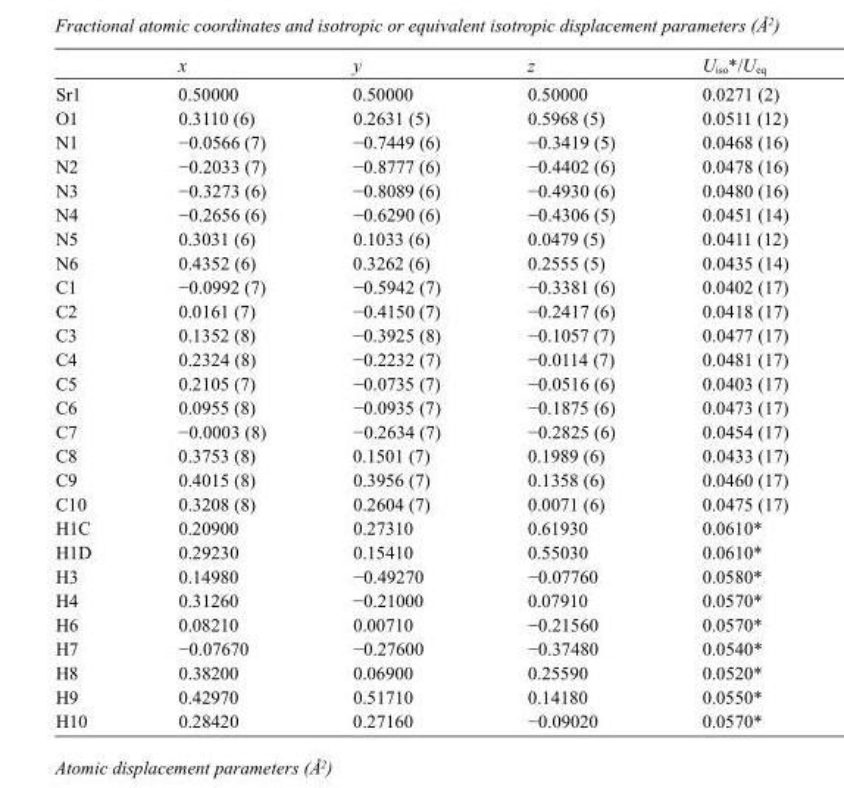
<table><thead><tr><td></td><td>x</td><td>y</td><td>z</td><td>U<sub>iso</sub>*/U<sub>eq</sub></td></tr></thead><tbody><tr><td>Sr1</td><td>0.50000</td><td>0.50000</td><td>0.50000</td><td>0.0271 (2)</td></tr><tr><td>O1</td><td>0.3110 (6)</td><td>0.2631 (5)</td><td>0.5968 (5)</td><td>0.0511 (12)</td></tr><tr><td>N1</td><td>−0.0566 (7)</td><td>−0.7449 (6)</td><td>−0.3419 (5)</td><td>0.0468 (16)</td></tr><tr><td>N2</td><td>−0.2033 (7)</td><td>−0.8777 (6)</td><td>−0.4402 (6)</td><td>0.0478 (16)</td></tr><tr><td>N3</td><td>−0.3273 (6)</td><td>−0.8089 (6)</td><td>−0.4930 (6)</td><td>0.0480 (16)</td></tr><tr><td>N4</td><td>−0.2656 (6)</td><td>−0.6290 (6)</td><td>−0.4306 (5)</td><td>0.0451 (14)</td></tr><tr><td>N5</td><td>0.3031 (6)</td><td>0.1033 (6)</td><td>0.0479 (5)</td><td>0.0411 (12)</td></tr><tr><td>N6</td><td>0.4352 (6)</td><td>0.3262 (6)</td><td>0.2555 (5)</td><td>0.0435 (14)</td></tr><tr><td>C1</td><td>−0.0992 (7)</td><td>−0.5942 (7)</td><td>−0.3381 (6)</td><td>0.0402 (17)</td></tr><tr><td>C2</td><td>0.0161 (7)</td><td>−0.4150 (7)</td><td>−0.2417 (6)</td><td>0.0418 (17)</td></tr><tr><td>C3</td><td>0.1352 (8)</td><td>−0.3925 (8)</td><td>−0.1057 (7)</td><td>0.0477 (17)</td></tr><tr><td>C4</td><td>0.2324 (8)</td><td>−0.2232 (7)</td><td>−0.0114 (7)</td><td>0.0481 (17)</td></tr><tr><td>C5</td><td>0.2105 (7)</td><td>−0.0735 (7)</td><td>−0.0516 (6)</td><td>0.0403 (17)</td></tr><tr><td>C6</td><td>0.0955 (8)</td><td>−0.0935 (7)</td><td>−0.1875 (6)</td><td>0.0473 (17)</td></tr><tr><td>C7</td><td>−0.0003 (8)</td><td>−0.2634 (7)</td><td>−0.2825 (6)</td><td>0.0454 (17)</td></tr><tr><td>C8</td><td>0.3753 (8)</td><td>0.1501 (7)</td><td>0.1989 (6)</td><td>0.0433 (17)</td></tr><tr><td>C9</td><td>0.4015 (8)</td><td>0.3956 (7)</td><td>0.1358 (6)</td><td>0.0460 (17)</td></tr><tr><td>C10</td><td>0.3208 (8)</td><td>0.2604 (7)</td><td>0.0071 (6)</td><td>0.0475 (17)</td></tr><tr><td>H1C</td><td>0.20900</td><td>0.27310</td><td>0.61930</td><td>0.0610*</td></tr><tr><td>H1D</td><td>0.29230</td><td>0.15410</td><td>0.55030</td><td>0.0610*</td></tr><tr><td>H3</td><td>0.14980</td><td>−0.49270</td><td>−0.07760</td><td>0.0580*</td></tr><tr><td>H4</td><td>0.31260</td><td>−0.21000</td><td>0.07910</td><td>0.0570*</td></tr><tr><td>H6</td><td>0.08210</td><td>0.00710</td><td>−0.21560</td><td>0.0570*</td></tr><tr><td>H7</td><td>−0.07670</td><td>−0.27600</td><td>−0.37480</td><td>0.0540*</td></tr><tr><td>H8</td><td>0.38200</td><td>0.06900</td><td>0.25590</td><td>0.0520*</td></tr><tr><td>H9</td><td>0.42970</td><td>0.51710</td><td>0.14180</td><td>0.0550*</td></tr><tr><td>H10</td><td>0.28420</td><td>0.27160</td><td>−0.09020</td><td>0.0570*</td></tr></tbody></table>